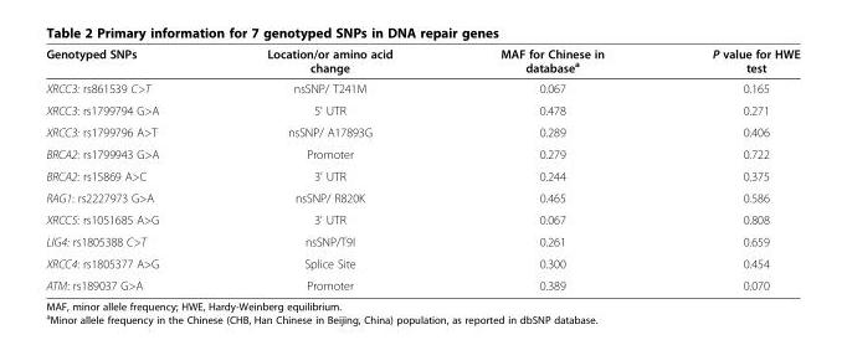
<table><thead><tr><td>Genotyped SNPs</td><td>Location/or amino acid change</td><td>MAF for Chinese in database<sup>a</sup></td><td>P value for HWE test</td></tr></thead><tbody><tr><td>XRCC3: rs861539 C&gt;T</td><td>nsSNP/ T241M</td><td>0.067</td><td>0.165</td></tr><tr><td>XRCC3: rs1799794 G&gt;A</td><td>5&#x27; UTR</td><td>0.478</td><td>0.271</td></tr><tr><td>XRCC3: rs1799796 A&gt;T</td><td>nsSNP/ A17893G</td><td>0.289</td><td>0.406</td></tr><tr><td>BRCA2: rs1799943 G&gt;A</td><td>Promoter</td><td>0.279</td><td>0.722</td></tr><tr><td>BRCA2: rs15869 A&gt;C</td><td>3&#x27; UTR</td><td>0.244</td><td>0.375</td></tr><tr><td>RAG1: rs2227973 G&gt;A</td><td>nsSNP/ R820K</td><td>0.465</td><td>0.586</td></tr><tr><td>XRCC5: rs1051685 A&gt;G</td><td>3&#x27; UTR</td><td>0.067</td><td>0.808</td></tr><tr><td>LIG4: rs1805388 C&gt;T</td><td>nsSNP/T9I</td><td>0.261</td><td>0.659</td></tr><tr><td>XRCC4: rs1805377 A&gt;G</td><td>Splice Site</td><td>0.300</td><td>0.454</td></tr><tr><td>ATM: rs189037 G&gt;A</td><td>Promoter</td><td>0.389</td><td>0.070</td></tr></tbody></table>